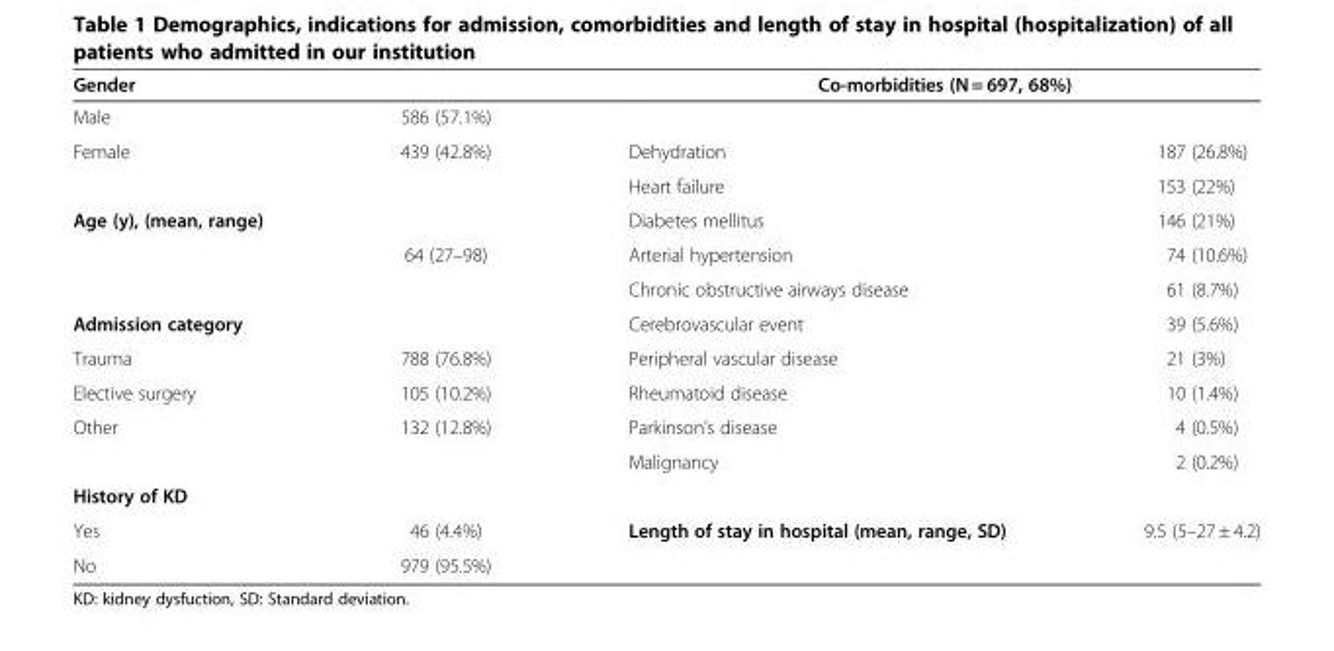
<table><thead><tr><td rowspan="2">Gender Male</td><td rowspan="2">586 (57.1%)</td><td colspan="2">Co-morbidities (N = 697, 68%)</td></tr><tr><td></td><td></td></tr></thead><tbody><tr><td rowspan="2">Female</td><td>439 (42.8%)</td><td>Dehydration</td><td>187 (26.8%)</td></tr><tr><td></td><td>Heart failure</td><td>153 (22%)</td></tr><tr><td rowspan="3">Age (y), (mean, range)</td><td></td><td>Diabetes mellitus</td><td>146 (21%)</td></tr><tr><td>64 (27–98)</td><td>Arterial hypertension</td><td>74 (10.6%)</td></tr><tr><td></td><td>Chronic obstructive airways disease</td><td>61 (8.7%)</td></tr><tr><td colspan="2">Admission category</td><td>Cerebrovascular event</td><td>39 (5.6%)</td></tr><tr><td>Trauma</td><td>788 (76.8%)</td><td>Peripheral vascular disease</td><td>21 (3%)</td></tr><tr><td>Elective surgery</td><td>105 (10.2%)</td><td>Rheumatoid disease</td><td>10 (1.4%)</td></tr><tr><td rowspan="2">Other</td><td>132 (12.8%)</td><td>Parkinson’s disease</td><td>4 (0.5%)</td></tr><tr><td></td><td>Malignancy</td><td>2 (0.2%)</td></tr><tr><td colspan="4">History of KD</td></tr><tr><td>Yes</td><td>46 (4.4%)</td><td>Length of stay in hospital (mean, range, SD)</td><td>9.5 (5–27 ± 4.2)</td></tr><tr><td>No</td><td>979 (95.5%)</td><td></td><td></td></tr></tbody></table>